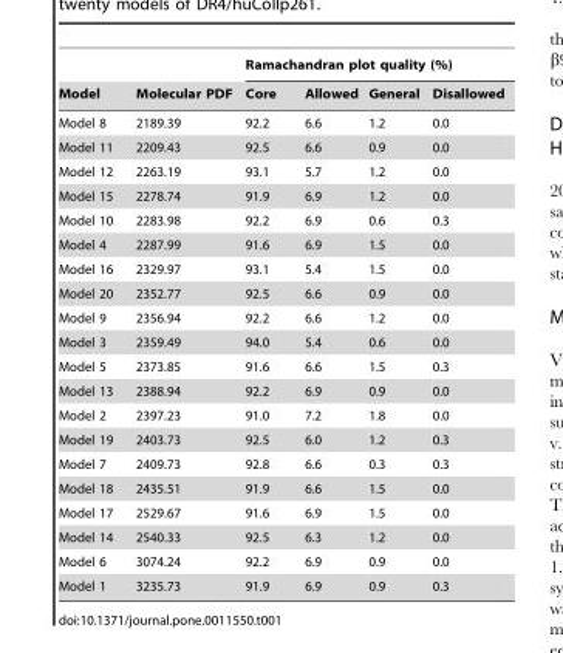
<table><thead><tr><td rowspan="2">Model</td><td rowspan="2">Molecular PDF</td><td colspan="4">Ramachandran plot quality (%)</td></tr><tr><td>Core</td><td>Allowed</td><td>General</td><td>Disallowed</td></tr></thead><tbody><tr><td>Model 8</td><td>2189.39</td><td>92.2</td><td>6.6</td><td>1.2</td><td>0.0</td></tr><tr><td>Model 11</td><td>2209.43</td><td>92.5</td><td>6.6</td><td>0.9</td><td>0.0</td></tr><tr><td>Model 12</td><td>2263.19</td><td>93.1</td><td>5.7</td><td>1.2</td><td>0.0</td></tr><tr><td>Model 15</td><td>2278.74</td><td>91.9</td><td>6.9</td><td>1.2</td><td>0.0</td></tr><tr><td>Model 10</td><td>2283.98</td><td>92.2</td><td>6.9</td><td>0.6</td><td>0.3</td></tr><tr><td>Model 4</td><td>2287.99</td><td>91.6</td><td>6.9</td><td>1.5</td><td>0.0</td></tr><tr><td>Model 16</td><td>2329.97</td><td>93.1</td><td>5.4</td><td>1.5</td><td>0.0</td></tr><tr><td>Model 20</td><td>2352.77</td><td>92.5</td><td>6.6</td><td>0.9</td><td>0.0</td></tr><tr><td>Model 9</td><td>2356.94</td><td>92.2</td><td>6.6</td><td>1.2</td><td>0.0</td></tr><tr><td>Model 3</td><td>2359.49</td><td>94.0</td><td>5.4</td><td>0.6</td><td>0.0</td></tr><tr><td>Model 5</td><td>2373.85</td><td>91.6</td><td>6.6</td><td>1.5</td><td>0.3</td></tr><tr><td>Model 13</td><td>2388.94</td><td>92.2</td><td>6.9</td><td>0.9</td><td>0.0</td></tr><tr><td>Model 2</td><td>2397.23</td><td>91.0</td><td>7.2</td><td>1.8</td><td>0.0</td></tr><tr><td>Model 19</td><td>2403.73</td><td>92.5</td><td>6.0</td><td>1.2</td><td>0.3</td></tr><tr><td>Model 7</td><td>2409.73</td><td>92.8</td><td>6.6</td><td>0.3</td><td>0.3</td></tr><tr><td>Model 18</td><td>2435.51</td><td>91.9</td><td>6.6</td><td>1.5</td><td>0.0</td></tr><tr><td>Model 17</td><td>2529.67</td><td>91.6</td><td>6.9</td><td>1.5</td><td>0.0</td></tr><tr><td>Model 14</td><td>2540.33</td><td>92.5</td><td>6.3</td><td>1.2</td><td>0.0</td></tr><tr><td>Model 6</td><td>3074.24</td><td>92.2</td><td>6.9</td><td>0.9</td><td>0.0</td></tr><tr><td>Model 1</td><td>3235.73</td><td>91.9</td><td>6.9</td><td>0.9</td><td>0.3</td></tr></tbody></table>